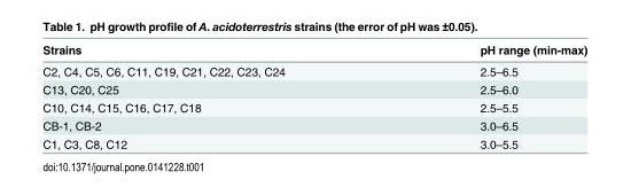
<table><thead><tr><td>Strains</td><td>pH range (min-max)</td></tr></thead><tbody><tr><td>C2, C4, C5, C6, C11, C19, C21, C22, C23, C24</td><td>2.5–6.5</td></tr><tr><td>C13, C20, C25</td><td>2.5–6.0</td></tr><tr><td>C10, C14, C15, C16, C17, C18</td><td>2.5–5.5</td></tr><tr><td>CB-1, CB-2</td><td>3.0–6.5</td></tr><tr><td>C1, C3, C8, C12</td><td>3.0–5.5</td></tr></tbody></table>